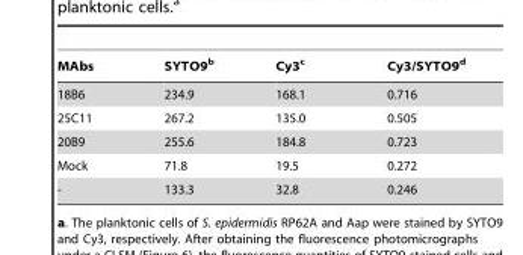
<table><thead><tr><td>MAbs</td><td>SYTO9<sup>b</sup></td><td>Cy3<sup>c</sup></td><td>Cy3/SYTO9<sup>d</sup></td></tr></thead><tbody><tr><td>18B6</td><td>234.9</td><td>168.1</td><td>0.716</td></tr><tr><td>25C11</td><td>267.2</td><td>135.0</td><td>0.505</td></tr><tr><td>20B9</td><td>255.6</td><td>184.8</td><td>0.723</td></tr><tr><td>Mock</td><td>71.8</td><td>19.5</td><td>0.272</td></tr><tr><td>-</td><td>133.3</td><td>32.8</td><td>0.246</td></tr></tbody></table>